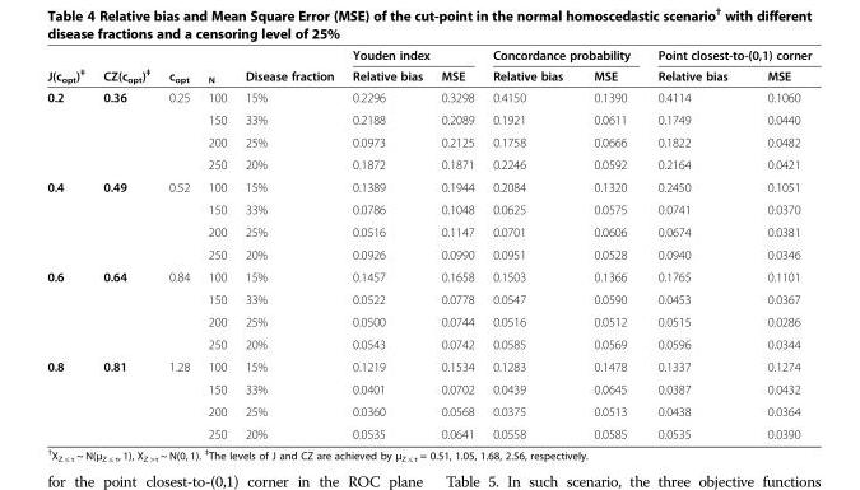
<table><thead><tr><td rowspan="2">J(c<sub>opt</sub>)<sup>‡</sup></td><td rowspan="2">CZ(c<sub>opt</sub>)<sup>‡</sup></td><td rowspan="2">c<sub>opt</sub></td><td rowspan="2"><sub>N</sub></td><td rowspan="2">Disease fraction</td><td colspan="2">Youden index</td><td colspan="2">Concordance probability</td><td colspan="2">Point closest-to-(0,1) corner</td></tr><tr><td>Relative bias</td><td>MSE</td><td>Relative bias</td><td>MSE</td><td>Relative bias</td><td>MSE</td></tr></thead><tbody><tr><td rowspan="4">0.2</td><td>0.36</td><td>0.25</td><td>100</td><td>15%</td><td>0.2296</td><td>0.3298</td><td>0.4150</td><td>0.1390</td><td>0.4114</td><td>0.1060</td></tr><tr><td></td><td></td><td>150</td><td>33%</td><td>0.2188</td><td>0.2089</td><td>0.1921</td><td>0.0611</td><td>0.1749</td><td>0.0440</td></tr><tr><td></td><td></td><td>200</td><td>25%</td><td>0.0973</td><td>0.2125</td><td>0.1758</td><td>0.0666</td><td>0.1822</td><td>0.0482</td></tr><tr><td></td><td></td><td>250</td><td>20%</td><td>0.1872</td><td>0.1871</td><td>0.2246</td><td>0.0592</td><td>0.2164</td><td>0.0421</td></tr><tr><td rowspan="4">0.4</td><td>0.49</td><td>0.52</td><td>100</td><td>15%</td><td>0.1389</td><td>0.1944</td><td>0.2084</td><td>0.1320</td><td>0.2450</td><td>0.1051</td></tr><tr><td></td><td></td><td>150</td><td>33%</td><td>0.0786</td><td>0.1048</td><td>0.0625</td><td>0.0575</td><td>0.0741</td><td>0.0370</td></tr><tr><td></td><td></td><td>200</td><td>25%</td><td>0.0516</td><td>0.1147</td><td>0.0701</td><td>0.0606</td><td>0.0674</td><td>0.0381</td></tr><tr><td></td><td></td><td>250</td><td>20%</td><td>0.0926</td><td>0.0990</td><td>0.0951</td><td>0.0528</td><td>0.0940</td><td>0.0346</td></tr><tr><td rowspan="4">0.6</td><td>0.64</td><td>0.84</td><td>100</td><td>15%</td><td>0.1457</td><td>0.1658</td><td>0.1503</td><td>0.1366</td><td>0.1765</td><td>0.1101</td></tr><tr><td></td><td></td><td>150</td><td>33%</td><td>0.0522</td><td>0.0778</td><td>0.0547</td><td>0.0590</td><td>0.0453</td><td>0.0367</td></tr><tr><td></td><td></td><td>200</td><td>25%</td><td>0.0500</td><td>0.0744</td><td>0.0516</td><td>0.0512</td><td>0.0515</td><td>0.0286</td></tr><tr><td></td><td></td><td>250</td><td>20%</td><td>0.0543</td><td>0.0742</td><td>0.0585</td><td>0.0569</td><td>0.0596</td><td>0.0344</td></tr><tr><td rowspan="4">0.8</td><td>0.81</td><td>1.28</td><td>100</td><td>15%</td><td>0.1219</td><td>0.1534</td><td>0.1283</td><td>0.1478</td><td>0.1337</td><td>0.1274</td></tr><tr><td></td><td></td><td>150</td><td>33%</td><td>0.0401</td><td>0.0702</td><td>0.0439</td><td>0.0645</td><td>0.0387</td><td>0.0432</td></tr><tr><td></td><td></td><td>200</td><td>25%</td><td>0.0360</td><td>0.0568</td><td>0.0375</td><td>0.0513</td><td>0.0438</td><td>0.0364</td></tr><tr><td></td><td></td><td>250</td><td>20%</td><td>0.0535</td><td>0.0641</td><td>0.0558</td><td>0.0585</td><td>0.0535</td><td>0.0390</td></tr></tbody></table>